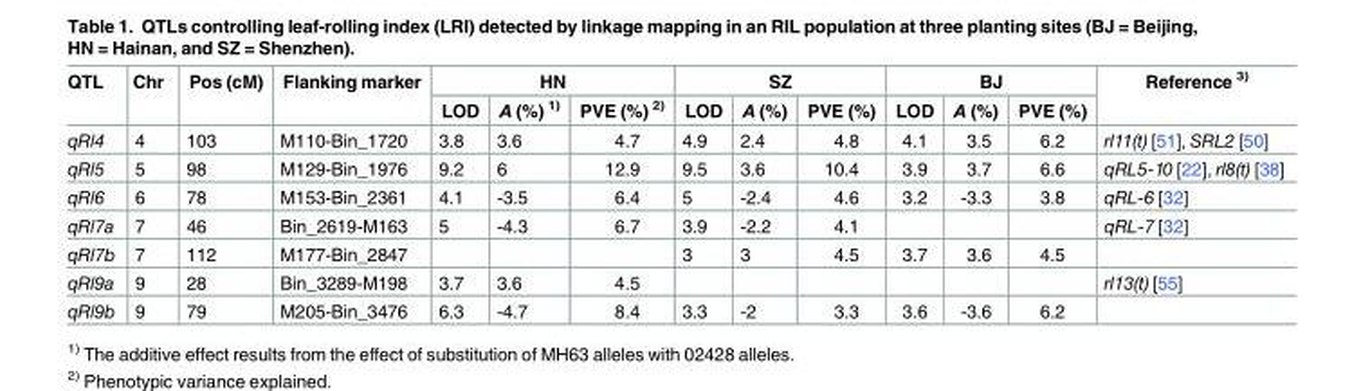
<table><thead><tr><td rowspan="2">QTL</td><td rowspan="2">Chr</td><td rowspan="2">Pos (cM)</td><td rowspan="2">Flanking marker</td><td colspan="3">HN</td><td colspan="3">SZ</td><td colspan="3">BJ</td><td rowspan="2">Reference <sup>3)</sup></td></tr><tr><td>LOD</td><td>A (%) <sup>1)</sup></td><td>PVE (%) <sup>2)</sup></td><td>LOD</td><td>A (%)</td><td>PVE (%)</td><td>LOD</td><td>A (%)</td><td>PVE (%)</td></tr></thead><tbody><tr><td>qRl4</td><td>4</td><td>103</td><td>M110-Bin_1720</td><td>3.8</td><td>3.6</td><td>4.7</td><td>4.9</td><td>2.4</td><td>4.8</td><td>4.1</td><td>3.5</td><td>6.2</td><td>rl11(t) [51], SRL2 [50]</td></tr><tr><td>qRl5</td><td>5</td><td>98</td><td>M129-Bin_1976</td><td>9.2</td><td>6</td><td>12.9</td><td>9.5</td><td>3.6</td><td>10.4</td><td>3.9</td><td>3.7</td><td>6.6</td><td>qRL5-10 [22], rl8(t) [38]</td></tr><tr><td>qRl6</td><td>6</td><td>78</td><td>M153-Bin_2361</td><td>4.1</td><td>-3.5</td><td>6.4</td><td>5</td><td>-2.4</td><td>4.6</td><td>3.2</td><td>-3.3</td><td>3.8</td><td>qRL-6 [32]</td></tr><tr><td>qRl7a</td><td>7</td><td>46</td><td>Bin_2619-M163</td><td>5</td><td>-4.3</td><td>6.7</td><td>3.9</td><td>-2.2</td><td>4.1</td><td></td><td></td><td></td><td>qRL-7 [32]</td></tr><tr><td>qRl7b</td><td>7</td><td>112</td><td>M177-Bin_2847</td><td></td><td></td><td></td><td>3</td><td>3</td><td>4.5</td><td>3.7</td><td>3.6</td><td>4.5</td><td></td></tr><tr><td>qRl9a</td><td>9</td><td>28</td><td>Bin_3289-M198</td><td>3.7</td><td>3.6</td><td>4.5</td><td></td><td></td><td></td><td></td><td></td><td></td><td>rl13(t) [55]</td></tr><tr><td>qRl9b</td><td>9</td><td>79</td><td>M205-Bin_3476</td><td>6.3</td><td>-4.7</td><td>8.4</td><td>3.3</td><td>-2</td><td>3.3</td><td>3.6</td><td>-3.6</td><td>6.2</td><td></td></tr></tbody></table>